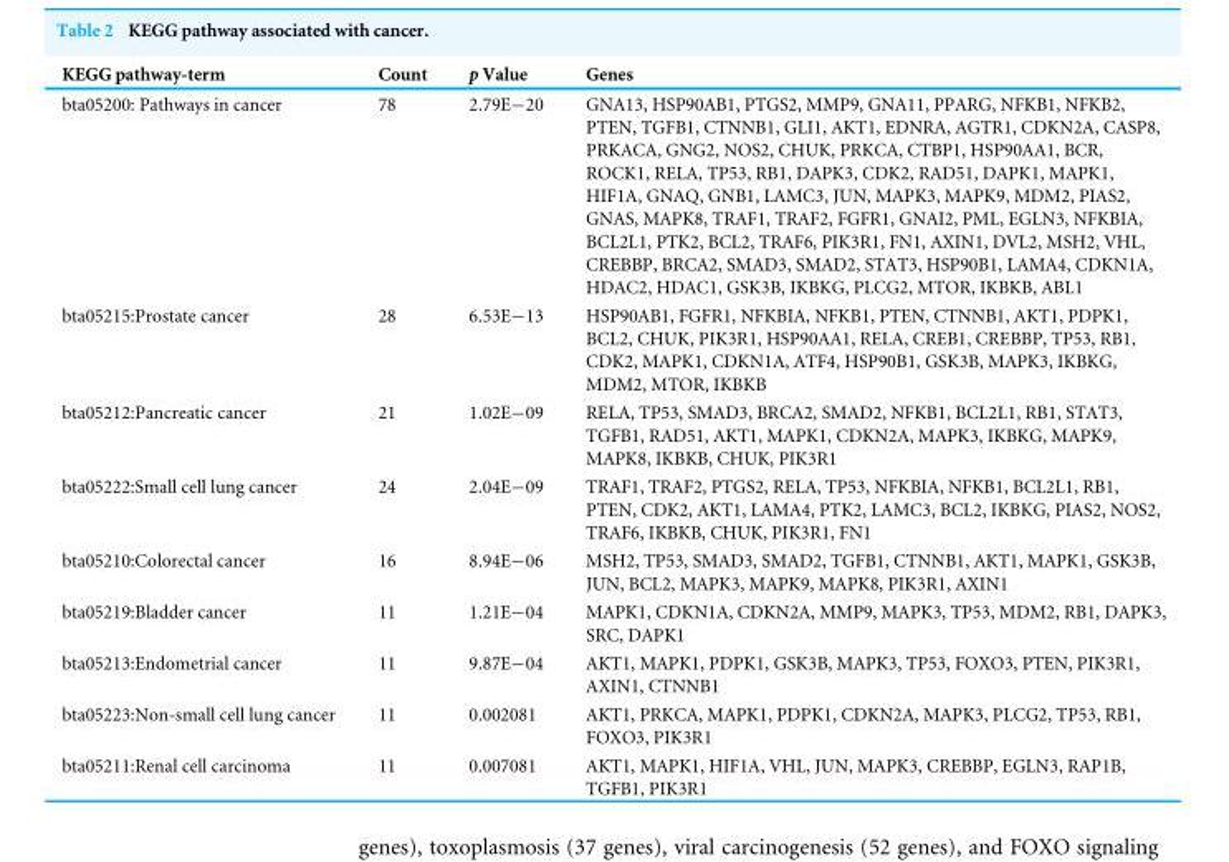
<table><thead><tr><td>KEGG pathway-term</td><td>Count</td><td>p Value</td><td>Genes</td></tr></thead><tbody><tr><td>bta05200: Pathways in cancer</td><td>78</td><td>2.79E−20</td><td>GNA13, HSP90AB1, PTGS2, MMP9, GNA11, PPARG, NFKB1, NFKB2, PTEN, TGFB1, CTNNB1, GLI1, AKT1, EDNRA, AGTR1, CDKN2A, CASP8, PRKACA, GNG2, NOS2, CHUK, PRKCA, CTBP1, HSP90AA1, BCR, ROCK1, RELA, TP53, RB1, DAPK3, CDK2, RAD51, DAPK1, MAPK1, HIF1A, GNAQ, GNB1, LAMC3, JUN, MAPK3, MAPK9, MDM2, PIAS2, GNAS, MAPK8, TRAF1, TRAF2, FGFR1, GNAI2, PML, EGLN3, NFKBIA, BCL2L1, PTK2, BCL2, TRAF6, PIK3R1, FN1, AXIN1, DVL2, MSH2, VHL, CREBBP, BRCA2, SMAD3, SMAD2, STAT3, HSP90B1, LAMA4, CDKN1A, HDAC2, HDAC1, GSK3B, IKBKG, PLCG2, MTOR, IKBKB, ABL1</td></tr><tr><td>bta05215:Prostate cancer</td><td>28</td><td>6.53E−13</td><td>HSP90AB1, FGFR1, NFKBIA, NFKB1, PTEN, CTNNB1, AKT1, PDPK1, BCL2, CHUK, PIK3R1, HSP90AA1, RELA, CREB1, CREBBP, TP53, RB1, CDK2, MAPK1, CDKN1A, ATF4, HSP90B1, GSK3B, MAPK3, IKBKG, MDM2, MTOR, IKBKB</td></tr><tr><td>bta05212:Pancreatic cancer</td><td>21</td><td>1.02E−09</td><td>RELA, TP53, SMAD3, BRCA2, SMAD2, NFKB1, BCL2L1, RB1, STAT3, TGFB1, RAD51, AKT1, MAPK1, CDKN2A, MAPK3, IKBKG, MAPK9, MAPK8, IKBKB, CHUK, PIK3R1</td></tr><tr><td>bta05222:Small cell lung cancer</td><td>24</td><td>2.04E−09</td><td>TRAF1, TRAF2, PTGS2, RELA, TP53, NFKBIA, NFKB1, BCL2L1, RB1, PTEN, CDK2, AKT1, LAMA4, PTK2, LAMC3, BCL2, IKBKG, PIAS2, NOS2, TRAF6, IKBKB, CHUK, PIK3R1, FN1</td></tr><tr><td>bta05210:Colorectal cancer</td><td>16</td><td>8.94E−06</td><td>MSH2, TP53, SMAD3, SMAD2, TGFB1, CTNNB1, AKT1, MAPK1, GSK3B, JUN, BCL2, MAPK3, MAPK9, MAPK8, PIK3R1, AXIN1</td></tr><tr><td>bta05219:Bladder cancer</td><td>11</td><td>1.21E−04</td><td>MAPK1, CDKN1A, CDKN2A, MMP9, MAPK3, TP53, MDM2, RB1, DAPK3, SRC, DAPK1</td></tr><tr><td>bta05213:Endometrial cancer</td><td>11</td><td>9.87E−04</td><td>AKT1, MAPK1, PDPK1, GSK3B, MAPK3, TP53, FOXO3, PTEN, PIK3R1, AXIN1, CTNNB1</td></tr><tr><td>bta05223:Non-small cell lung cancer</td><td>11</td><td>0.002081</td><td>AKT1, PRKCA, MAPK1, PDPK1, CDKN2A, MAPK3, PLCG2, TP53, RB1, FOXO3, PIK3R1</td></tr><tr><td>bta05211:Renal cell carcinoma</td><td>11</td><td>0.007081</td><td>AKT1, MAPK1, HIF1A, VHL, JUN, MAPK3, CREBBP, EGLN3, RAP1B, TGFB1, PIK3R1</td></tr></tbody></table>